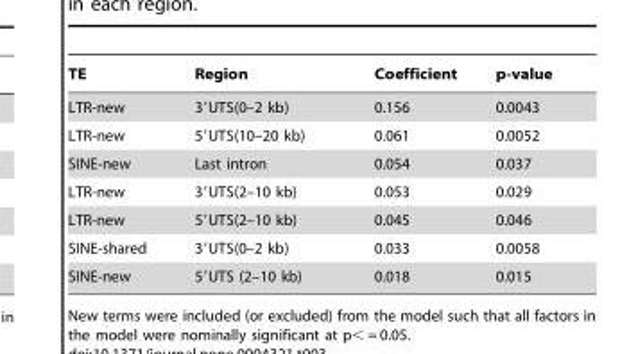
<table><thead><tr><td>TE</td><td>Region</td><td>Coefficient</td><td>p-value</td></tr></thead><tbody><tr><td>LTR-new</td><td>3′UTS(0–2 kb)</td><td>0.156</td><td>0.0043</td></tr><tr><td>LTR-new</td><td>5′UTS(10–20 kb)</td><td>0.061</td><td>0.0052</td></tr><tr><td>SINE-new</td><td>Last intron</td><td>0.054</td><td>0.037</td></tr><tr><td>LTR-new</td><td>3′UTS(2–10 kb)</td><td>0.053</td><td>0.029</td></tr><tr><td>LTR-new</td><td>5′UTS(2–10 kb)</td><td>0.045</td><td>0.046</td></tr><tr><td>SINE-shared</td><td>3′UTS(0–2 kb)</td><td>0.033</td><td>0.0058</td></tr><tr><td>SINE-new</td><td>5′UTS (2–10 kb)</td><td>0.018</td><td>0.015</td></tr></tbody></table>